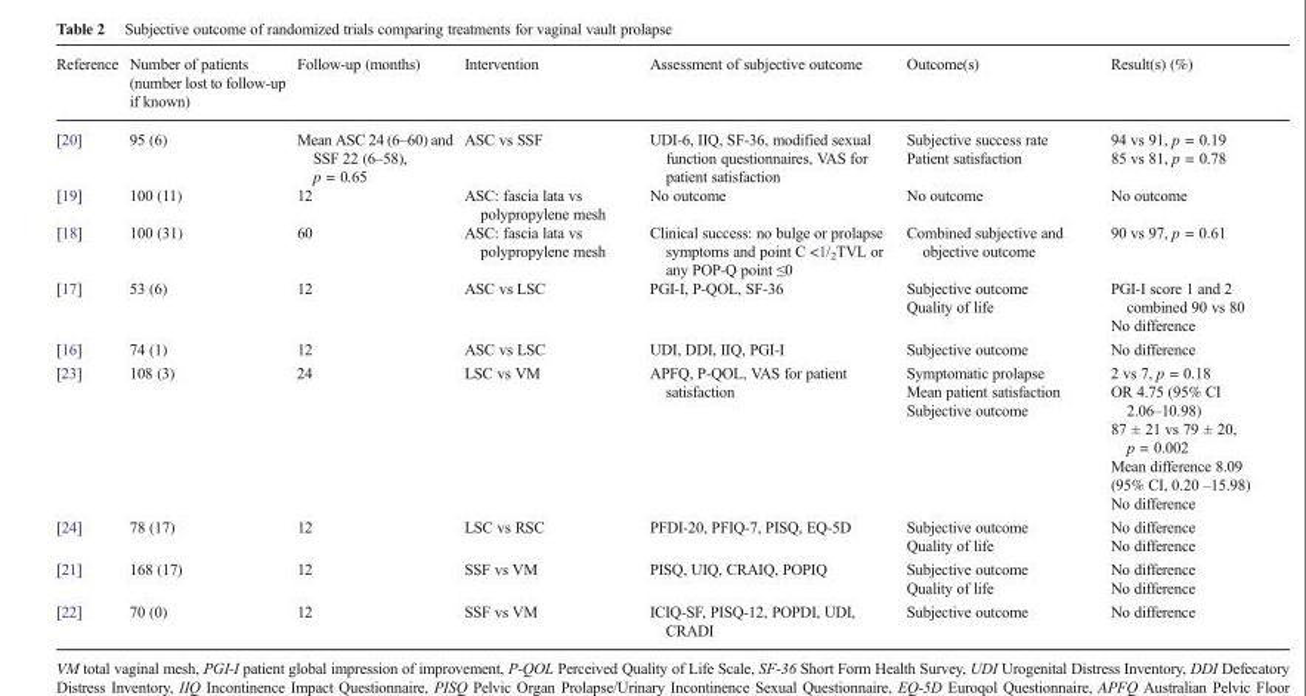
<table><thead><tr><td>Reference</td><td>Number of patients (number lost to follow-up if known)</td><td>Follow-up (months)</td><td>Intervention</td><td>Assessment of subjective outcome</td><td>Outcome(s)</td><td>Result(s) (%)</td></tr></thead><tbody><tr><td>[20]</td><td>95 (6)</td><td>Mean ASC 24 (6–60) and SSF 22 (6–58), p = 0.65</td><td>ASC vs SSF</td><td>UDI-6, IIQ, SF-36, modified sexual function questionnaires, VAS for patient satisfaction</td><td>Subjective success rate Patient satisfaction</td><td>94 vs 91, p = 0.19 85 vs 81, p = 0.78</td></tr><tr><td>[19]</td><td>100 (11)</td><td>12</td><td>ASC: fascia lata vs polypropylene mesh</td><td>No outcome</td><td>No outcome</td><td>No outcome</td></tr><tr><td>[18]</td><td>100 (31)</td><td>60</td><td>ASC: fascia lata vs polypropylene mesh</td><td>Clinical success: no bulge or prolapse symptoms and point C &lt;<sup>1</sup>/<sub>2</sub>TVL or any POP-Q point ≤0</td><td>Combined subjective and objective outcome</td><td>90 vs 97, p = 0.61</td></tr><tr><td>[17]</td><td>53 (6)</td><td>12</td><td>ASC vs LSC</td><td>PGI-I, P-QOL, SF-36</td><td>Subjective outcome Quality of life</td><td>PGI-I score 1 and 2 combined 90 vs 80 No difference</td></tr><tr><td>[16]</td><td>74 (1)</td><td>12</td><td>ASC vs LSC</td><td>UDI, DDI, IIQ, PGI-I</td><td>Subjective outcome</td><td>No difference</td></tr><tr><td>[23]</td><td>108 (3)</td><td>24</td><td>LSC vs VM</td><td>APFQ, P-QOL, VAS for patient satisfaction</td><td>Symptomatic prolapse Mean patient satisfaction Subjective outcome</td><td>2 vs 7, p = 0.18 OR 4.75 (95% CI 2.06–10.98) 87 ± 21 vs 79 ± 20, p = 0.002 Mean difference 8.09 (95% CI, 0.20 –15.98) No difference</td></tr><tr><td>[24]</td><td>78 (17)</td><td>12</td><td>LSC vs RSC</td><td>PFDI-20, PFIQ-7, PISQ, EQ-5D</td><td>Subjective outcome Quality of life</td><td>No difference No difference</td></tr><tr><td>[21]</td><td>168 (17)</td><td>12</td><td>SSF vs VM</td><td>PISQ, UIQ, CRAIQ, POPIQ</td><td>Subjective outcome Quality of life</td><td>No difference No difference</td></tr><tr><td>[22]</td><td>70 (0)</td><td>12</td><td>SSF vs VM</td><td>ICIQ-SF, PISQ-12, POPDI, UDI, CRADI</td><td>Subjective outcome</td><td>No difference</td></tr></tbody></table>